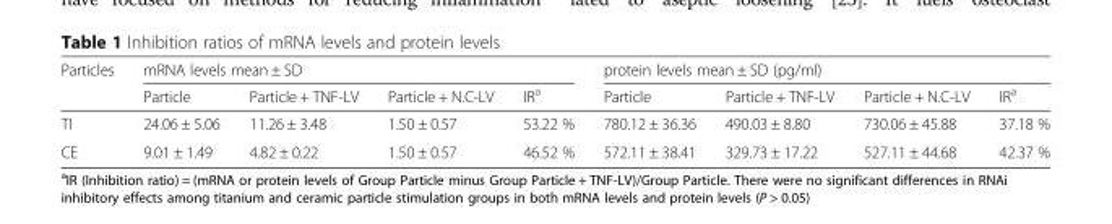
<table><thead><tr><td rowspan="2">Particles</td><td colspan="4">mRNA levels mean ± SD</td><td colspan="4">protein levels mean ± SD (pg/ml)</td></tr><tr><td>Particle</td><td>Particle + TNF-LV</td><td>Particle + N.C-LV</td><td>IR<sup>a</sup></td><td>Particle</td><td>Particle + TNF-LV</td><td>Particle + N.C-LV</td><td>IR<sup>a</sup></td></tr></thead><tbody><tr><td>TI</td><td>24.06 ± 5.06</td><td>11.26 ± 3.48</td><td>1.50 ± 0.57</td><td>53.22 %</td><td>780.12 ± 36.36</td><td>490.03 ± 8.80</td><td>730.06 ± 45.88</td><td>37.18 %</td></tr><tr><td>CE</td><td>9.01 ± 1.49</td><td>4.82 ± 0.22</td><td>1.50 ± 0.57</td><td>46.52 %</td><td>572.11 ± 38.41</td><td>329.73 ± 17.22</td><td>527.11 ± 44.68</td><td>42.37 %</td></tr></tbody></table>